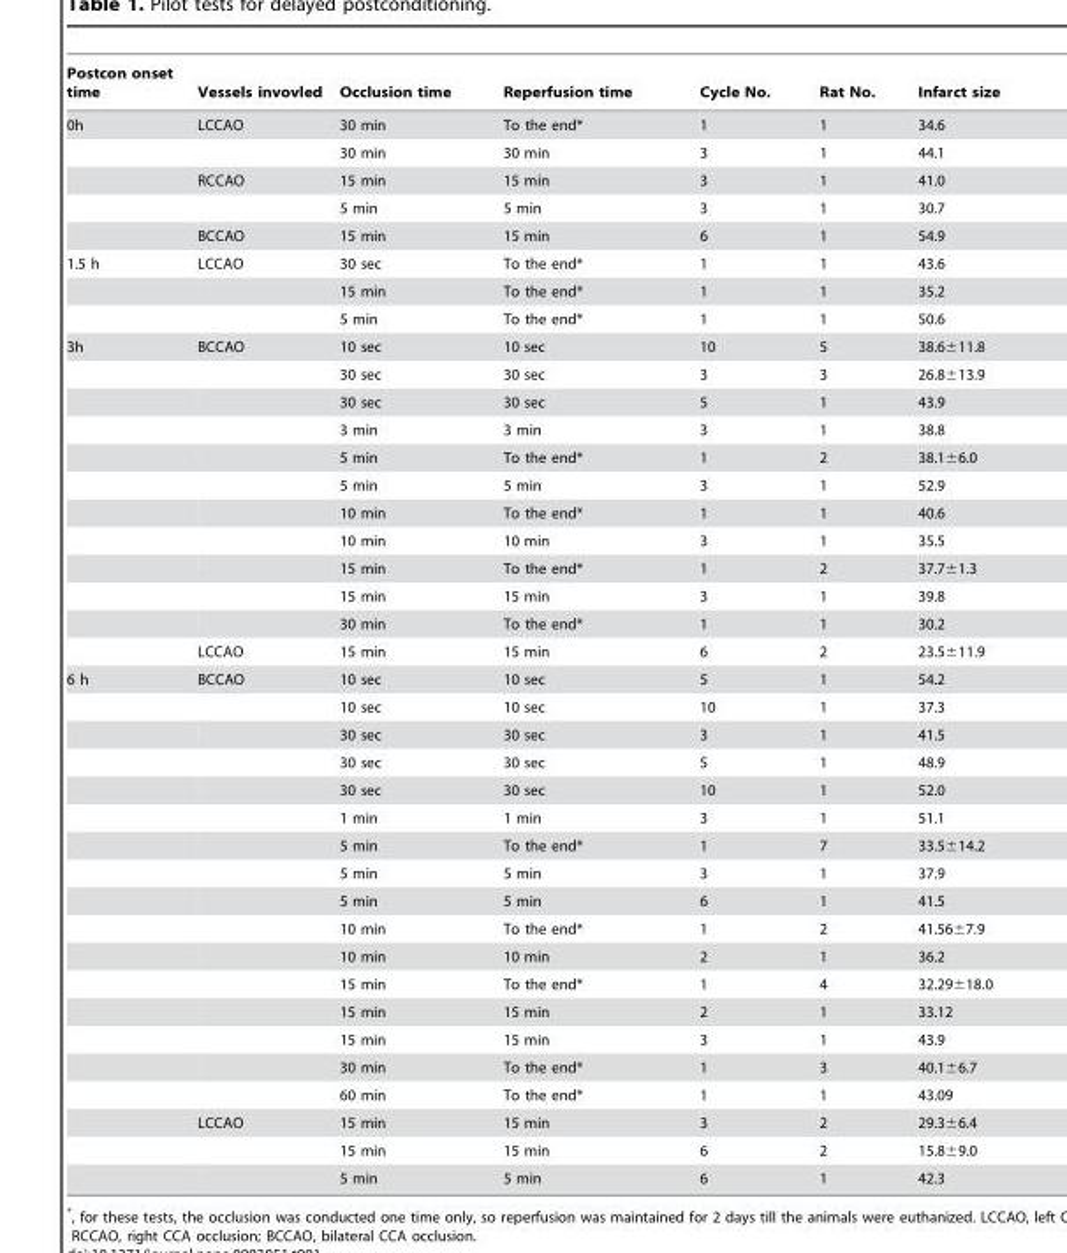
<table><thead><tr><td>Postcon onset time</td><td>Vessels invovled</td><td>Occlusion time</td><td>Reperfusion time</td><td>Cycle No.</td><td>Rat No.</td><td>Infarct size</td></tr></thead><tbody><tr><td rowspan="5">0h</td><td>LCCAO</td><td>30 min</td><td>To the end*</td><td>1</td><td>1</td><td>34.6</td></tr><tr><td></td><td>30 min</td><td>30 min</td><td>3</td><td>1</td><td>44.1</td></tr><tr><td>RCCAO</td><td>15 min</td><td>15 min</td><td>3</td><td>1</td><td>41.0</td></tr><tr><td></td><td>5 min</td><td>5 min</td><td>3</td><td>1</td><td>30.7</td></tr><tr><td>BCCAO</td><td>15 min</td><td>15 min</td><td>6</td><td>1</td><td>54.9</td></tr><tr><td rowspan="3">1.5 h</td><td>LCCAO</td><td>30 sec</td><td>To the end*</td><td>1</td><td>1</td><td>43.6</td></tr><tr><td></td><td>15 min</td><td>To the end*</td><td>1</td><td>1</td><td>35.2</td></tr><tr><td></td><td>5 min</td><td>To the end*</td><td>1</td><td>1</td><td>50.6</td></tr><tr><td rowspan="12">3h</td><td>BCCAO</td><td>10 sec</td><td>10 sec</td><td>10</td><td>5</td><td>38.6±11.8</td></tr><tr><td></td><td>30 sec</td><td>30 sec</td><td>3</td><td>3</td><td>26.8±13.9</td></tr><tr><td></td><td>30 sec</td><td>30 sec</td><td>5</td><td>1</td><td>43.9</td></tr><tr><td></td><td>3 min</td><td>3 min</td><td>3</td><td>1</td><td>38.8</td></tr><tr><td></td><td>5 min</td><td>To the end*</td><td>1</td><td>2</td><td>38.1±6.0</td></tr><tr><td></td><td>5 min</td><td>5 min</td><td>3</td><td>1</td><td>52.9</td></tr><tr><td></td><td>10 min</td><td>To the end*</td><td>1</td><td>1</td><td>40.6</td></tr><tr><td></td><td>10 min</td><td>10 min</td><td>3</td><td>1</td><td>35.5</td></tr><tr><td></td><td>15 min</td><td>To the end*</td><td>1</td><td>2</td><td>37.7±1.3</td></tr><tr><td></td><td>15 min</td><td>15 min</td><td>3</td><td>1</td><td>39.8</td></tr><tr><td></td><td>30 min</td><td>To the end*</td><td>1</td><td>1</td><td>30.2</td></tr><tr><td>LCCAO</td><td>15 min</td><td>15 min</td><td>6</td><td>2</td><td>23.5±11.9</td></tr><tr><td rowspan="19">6 h</td><td>BCCAO</td><td>10 sec</td><td>10 sec</td><td>5</td><td>1</td><td>54.2</td></tr><tr><td></td><td>10 sec</td><td>10 sec</td><td>10</td><td>1</td><td>37.3</td></tr><tr><td></td><td>30 sec</td><td>30 sec</td><td>3</td><td>1</td><td>41.5</td></tr><tr><td></td><td>30 sec</td><td>30 sec</td><td>5</td><td>1</td><td>48.9</td></tr><tr><td></td><td>30 sec</td><td>30 sec</td><td>10</td><td>1</td><td>52.0</td></tr><tr><td></td><td>1 min</td><td>1 min</td><td>3</td><td>1</td><td>51.1</td></tr><tr><td></td><td>5 min</td><td>To the end*</td><td>1</td><td>7</td><td>33.5±14.2</td></tr><tr><td></td><td>5 min</td><td>5 min</td><td>3</td><td>1</td><td>37.9</td></tr><tr><td></td><td>5 min</td><td>5 min</td><td>6</td><td>1</td><td>41.5</td></tr><tr><td></td><td>10 min</td><td>To the end*</td><td>1</td><td>2</td><td>41.56±7.9</td></tr><tr><td></td><td>10 min</td><td>10 min</td><td>2</td><td>1</td><td>36.2</td></tr><tr><td></td><td>15 min</td><td>To the end*</td><td>1</td><td>4</td><td>32.29±18.0</td></tr><tr><td></td><td>15 min</td><td>15 min</td><td>2</td><td>1</td><td>33.12</td></tr><tr><td></td><td>15 min</td><td>15 min</td><td>3</td><td>1</td><td>43.9</td></tr><tr><td></td><td>30 min</td><td>To the end*</td><td>1</td><td>3</td><td>40.1±6.7</td></tr><tr><td></td><td>60 min</td><td>To the end*</td><td>1</td><td>1</td><td>43.09</td></tr><tr><td>LCCAO</td><td>15 min</td><td>15 min</td><td>3</td><td>2</td><td>29.3±6.4</td></tr><tr><td></td><td>15 min</td><td>15 min</td><td>6</td><td>2</td><td>15.8±9.0</td></tr><tr><td></td><td>5 min</td><td>5 min</td><td>6</td><td>1</td><td>42.3</td></tr></tbody></table>